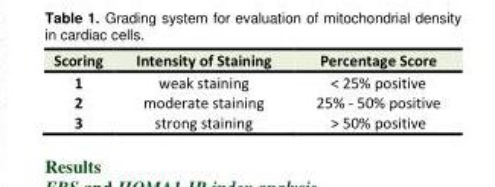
<table><tbody><tr><td>Scoring</td><td>Intensity of Staining</td><td>Percentage Score</td></tr><tr><td>1</td><td>weak staining</td><td>&lt; 25% positive</td></tr><tr><td>2</td><td>moderate staining</td><td>25% - 50% positive</td></tr><tr><td>3</td><td>strong staining</td><td>&gt; 50% positive</td></tr></tbody></table>